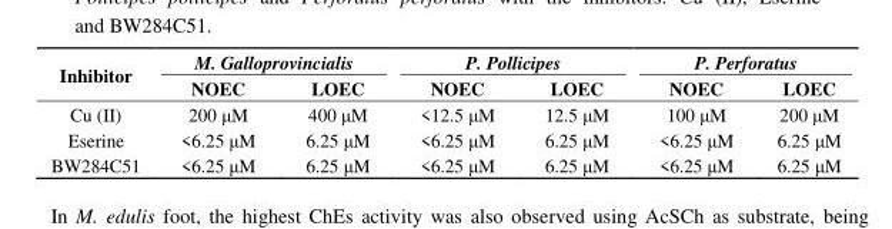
<table><thead><tr><td rowspan="2">Inhibitor</td><td colspan="2">M. Galloprovincialis</td><td colspan="2">P. Pollicipes</td><td colspan="2">P. Perforatus</td></tr><tr><td>NOEC</td><td>LOEC</td><td>NOEC</td><td>LOEC</td><td>NOEC</td><td>LOEC</td></tr></thead><tbody><tr><td>Cu (II)</td><td>200 μM</td><td>400 μM</td><td>&lt;12.5 μM</td><td>12.5 μM</td><td>100 μM</td><td>200 μM</td></tr><tr><td>Eserine</td><td>&lt;6.25 μM</td><td>6.25 μM</td><td>&lt;6.25 μM</td><td>6.25 μM</td><td>&lt;6.25 μM</td><td>6.25 μM</td></tr><tr><td>BW284C51</td><td>&lt;6.25 μM</td><td>6.25 μM</td><td>&lt;6.25 μM</td><td>6.25 μM</td><td>&lt;6.25 μM</td><td>6.25 μM</td></tr></tbody></table>